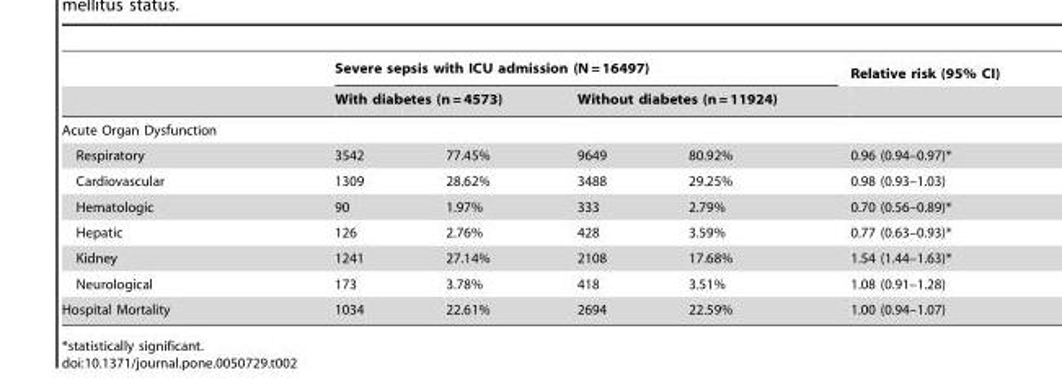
<table><thead><tr><td rowspan="3">Acute Organ Dysfunction</td><td colspan="4">Severe sepsis with ICU admission (N = 16497)</td><td rowspan="3">Relative risk (95% CI)</td></tr><tr><td colspan="2">With diabetes (n = 4573)</td><td colspan="2">Without diabetes (n = 11924)</td></tr><tr><td></td><td></td><td></td><td></td></tr></thead><tbody><tr><td>Respiratory</td><td>3542</td><td>77.45%</td><td>9649</td><td>80.92%</td><td>0.96 (0.94–0.97)*</td></tr><tr><td>Cardiovascular</td><td>1309</td><td>28.62%</td><td>3488</td><td>29.25%</td><td>0.98 (0.93–1.03)</td></tr><tr><td>Hematologic</td><td>90</td><td>1.97%</td><td>333</td><td>2.79%</td><td>0.70 (0.56–0.89)*</td></tr><tr><td>Hepatic</td><td>126</td><td>2.76%</td><td>428</td><td>3.59%</td><td>0.77 (0.63–0.93)*</td></tr><tr><td>Kidney</td><td>1241</td><td>27.14%</td><td>2108</td><td>17.68%</td><td>1.54 (1.44–1.63)*</td></tr><tr><td>Neurological</td><td>173</td><td>3.78%</td><td>418</td><td>3.51%</td><td>1.08 (0.91–1.28)</td></tr><tr><td>Hospital Mortality</td><td>1034</td><td>22.61%</td><td>2694</td><td>22.59%</td><td>1.00 (0.94–1.07)</td></tr></tbody></table>